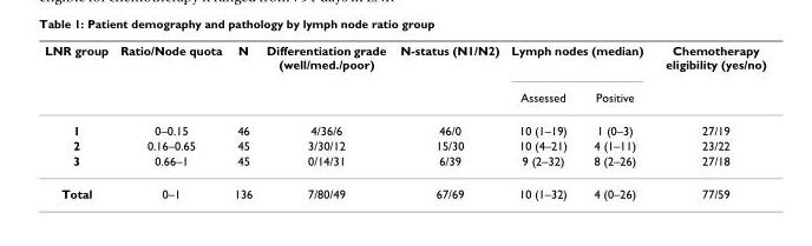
<table><thead><tr><td rowspan="2">LNR group</td><td rowspan="2">Ratio/Node quota</td><td rowspan="2">N</td><td rowspan="2">Differentiation grade (well/med./poor)</td><td rowspan="2">N-status (N1/N2)</td><td colspan="2">Lymph nodes (median)</td><td rowspan="2">Chemotherapy eligibility (yes/no)</td></tr><tr><td>Assessed</td><td>Positive</td></tr></thead><tbody><tr><td>1</td><td>0–0.15</td><td>46</td><td>4/36/6</td><td>46/0</td><td>10 (1–19)</td><td>1 (0–3)</td><td>27/19</td></tr><tr><td>2</td><td>0.16–0.65</td><td>45</td><td>3/30/12</td><td>15/30</td><td>10 (4–21)</td><td>4 (1–11)</td><td>23/22</td></tr><tr><td>3</td><td>0.66–1</td><td>45</td><td>0/14/31</td><td>6/39</td><td>9 (2–32)</td><td>8 (2–26)</td><td>27/18</td></tr><tr><td>Total</td><td>0–1</td><td>136</td><td>7/80/49</td><td>67/69</td><td>10 (1–32)</td><td>4 (0–26)</td><td>77/59</td></tr></tbody></table>